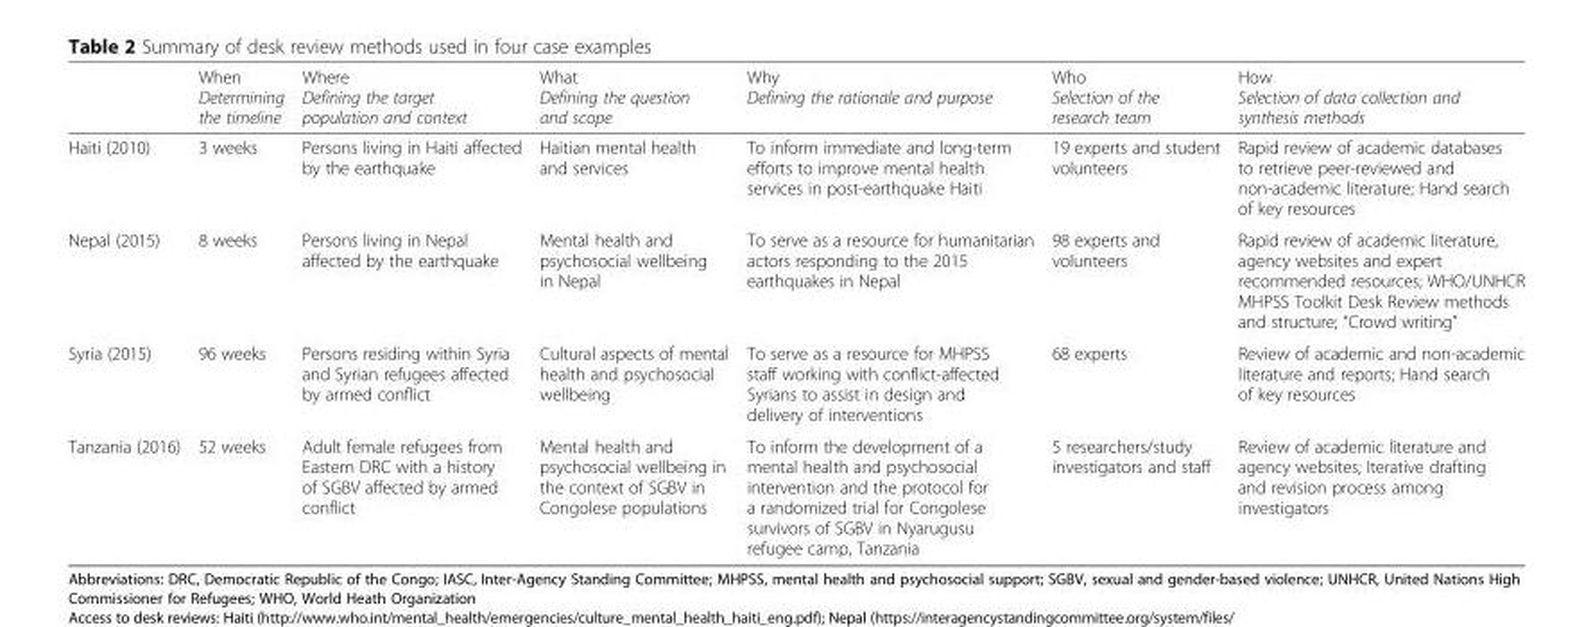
<table><thead><tr><td></td><td>When Determining the timeline</td><td>Where Defining the target population and context</td><td>What Defining the question and scope</td><td>Why Defining the rationale and purpose</td><td>Who Selection of the research team</td><td>How Selection of data collection and synthesis methods</td></tr></thead><tbody><tr><td>Haiti (2010)</td><td>3 weeks</td><td>Persons living in Haiti affected by the earthquake</td><td>Haitian mental health and services</td><td>To inform immediate and long-term efforts to improve mental health services in post-earthquake Haiti</td><td>19 experts and student volunteers</td><td>Rapid review of academic databases to retrieve peer-reviewed and non-academic literature; Hand search of key resources</td></tr><tr><td>Nepal (2015)</td><td>8 weeks</td><td>Persons living in Nepal affected by the earthquake</td><td>Mental health and psychosocial wellbeing in Nepal</td><td>To serve as a resource for humanitarian actors responding to the 2015 earthquakes in Nepal</td><td>98 experts and volunteers</td><td>Rapid review of academic literature, agency websites and expert recommended resources; WHO/UNHCR MHPSS Toolkit Desk Review methods and structure; “Crowd writing”</td></tr><tr><td>Syria (2015)</td><td>96 weeks</td><td>Persons residing within Syria and Syrian refugees affected by armed conflict</td><td>Cultural aspects of mental health and psychosocial wellbeing</td><td>To serve as a resource for MHPSS staff working with conflict-affected Syrians to assist in design and delivery of interventions</td><td>68 experts</td><td>Review of academic and non-academic literature and reports; Hand search of key resources</td></tr><tr><td>Tanzania (2016)</td><td>52 weeks</td><td>Adult female refugees from Eastern DRC with a history of SGBV affected by armed conflict</td><td>Mental health and psychosocial wellbeing in the context of SGBV in Congolese populations</td><td>To inform the development of a mental health and psychosocial intervention and the protocol for a randomized trial for Congolese survivors of SGBV in Nyarugusu refugee camp, Tanzania</td><td>5 researchers/study investigators and staff</td><td>Review of academic literature and agency websites; Iterative drafting and revision process among investigators</td></tr></tbody></table>